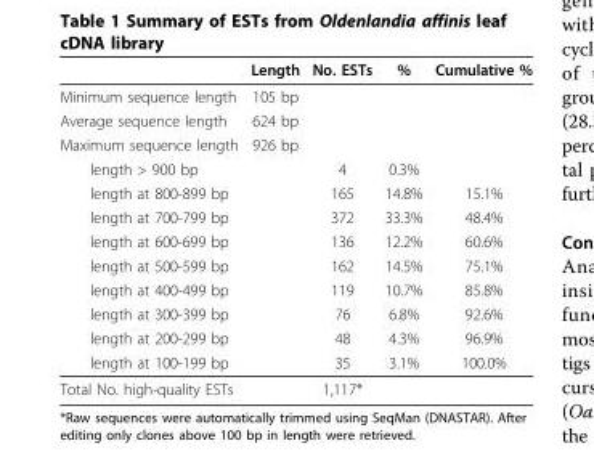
<table><thead><tr><td></td><td>Length</td><td>No. ESTs</td><td>%</td><td>Cumulative %</td></tr></thead><tbody><tr><td>Minimum sequence length</td><td>105 bp</td><td></td><td></td><td></td></tr><tr><td>Average sequence length</td><td>624 bp</td><td></td><td></td><td></td></tr><tr><td>Maximum sequence length</td><td>926 bp</td><td></td><td></td><td></td></tr><tr><td>length &gt; 900 bp</td><td></td><td>4</td><td>0.3%</td><td></td></tr><tr><td>length at 800-899 bp</td><td></td><td>165</td><td>14.8%</td><td>15.1%</td></tr><tr><td>length at 700-799 bp</td><td></td><td>372</td><td>33.3%</td><td>48.4%</td></tr><tr><td>length at 600-699 bp</td><td></td><td>136</td><td>12.2%</td><td>60.6%</td></tr><tr><td>length at 500-599 bp</td><td></td><td>162</td><td>14.5%</td><td>75.1%</td></tr><tr><td>length at 400-499 bp</td><td></td><td>119</td><td>10.7%</td><td>85.8%</td></tr><tr><td>length at 300-399 bp</td><td></td><td>76</td><td>6.8%</td><td>92.6%</td></tr><tr><td>length at 200-299 bp</td><td></td><td>48</td><td>4.3%</td><td>96.9%</td></tr><tr><td>length at 100-199 bp</td><td></td><td>35</td><td>3.1%</td><td>100.0%</td></tr><tr><td>Total No. high-quality ESTs</td><td></td><td>1,117*</td><td></td><td></td></tr></tbody></table>